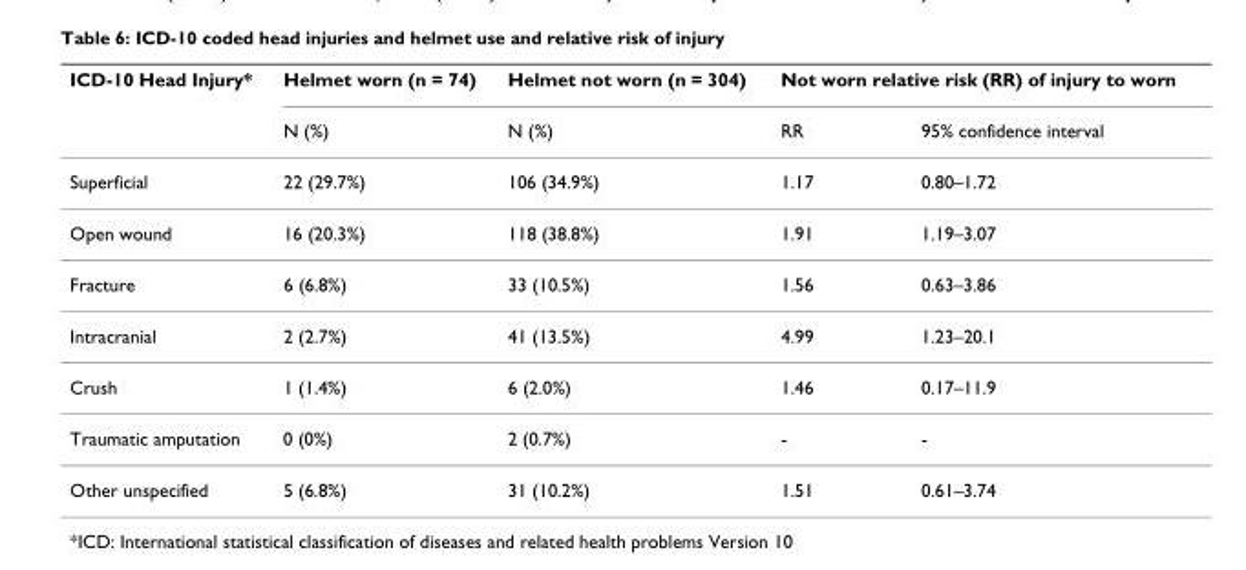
<table><thead><tr><td rowspan="2">ICD-10 Head Injury*</td><td rowspan="2">Helmet worn (n = 74) N (%)</td><td rowspan="2">Helmet not worn (n = 304) N (%)</td><td colspan="2">Not worn relative risk (RR) of injury to worn</td></tr><tr><td>RR</td><td>95% confidence interval</td></tr></thead><tbody><tr><td>Superficial</td><td>22 (29.7%)</td><td>106 (34.9%)</td><td>1.17</td><td>0.80–1.72</td></tr><tr><td>Open wound</td><td>16 (20.3%)</td><td>118 (38.8%)</td><td>1.91</td><td>1.19–3.07</td></tr><tr><td>Fracture</td><td>6 (6.8%)</td><td>33 (10.5%)</td><td>1.56</td><td>0.63–3.86</td></tr><tr><td>Intracranial</td><td>2 (2.7%)</td><td>41 (13.5%)</td><td>4.99</td><td>1.23–20.1</td></tr><tr><td>Crush</td><td>1 (1.4%)</td><td>6 (2.0%)</td><td>1.46</td><td>0.17–11.9</td></tr><tr><td>Traumatic amputation</td><td>0 (0%)</td><td>2 (0.7%)</td><td>-</td><td>-</td></tr><tr><td>Other unspecified</td><td>5 (6.8%)</td><td>31 (10.2%)</td><td>1.51</td><td>0.61–3.74</td></tr></tbody></table>